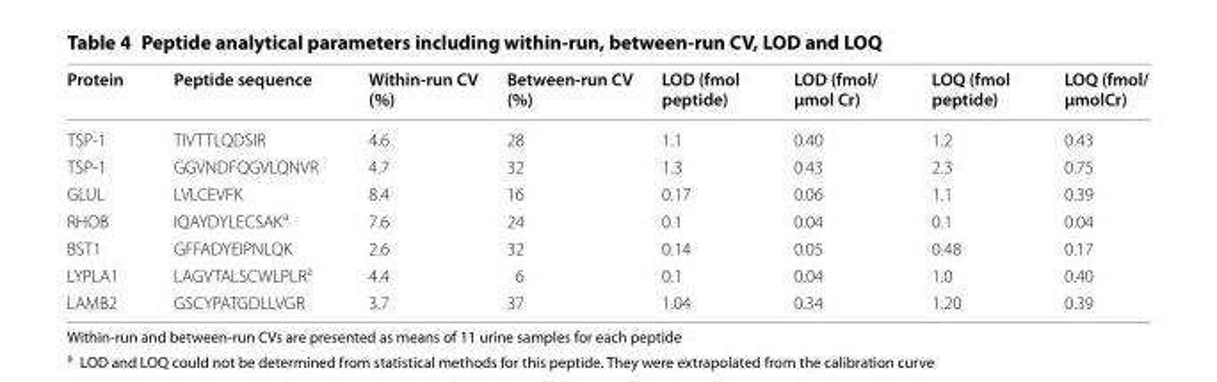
<table><thead><tr><td>Protein</td><td>Peptide sequence</td><td>Within‑run CV (%)</td><td>Between‑run CV (%)</td><td>LOD (fmol peptide)</td><td>LOD (fmol/ µmol Cr)</td><td>LOQ (fmol peptide)</td><td>LOQ (fmol/ µmolCr)</td></tr></thead><tbody><tr><td>TSP-1</td><td>TIVTTLQDSIR</td><td>4.6</td><td>28</td><td>1.1</td><td>0.40</td><td>1.2</td><td>0.43</td></tr><tr><td>TSP-1</td><td>GGVNDFQGVLQNVR</td><td>4.7</td><td>32</td><td>1.3</td><td>0.43</td><td>2.3</td><td>0.75</td></tr><tr><td>GLUL</td><td>LVLCEVFK</td><td>8.4</td><td>16</td><td>0.17</td><td>0.06</td><td>1.1</td><td>0.39</td></tr><tr><td>RHOB</td><td>IQAYDYLECSAK<sup>a</sup></td><td>7.6</td><td>24</td><td>0.1</td><td>0.04</td><td>0.1</td><td>0.04</td></tr><tr><td>BST1</td><td>GFFADYEIPNLQK</td><td>2.6</td><td>32</td><td>0.14</td><td>0.05</td><td>0.48</td><td>0.17</td></tr><tr><td>LYPLA1</td><td>LAGVTALSCWLPLR<sup>a</sup></td><td>4.4</td><td>6</td><td>0.1</td><td>0.04</td><td>1.0</td><td>0.40</td></tr><tr><td>LAMB2</td><td>GSCYPATGDLLVGR</td><td>3.7</td><td>37</td><td>1.04</td><td>0.34</td><td>1.20</td><td>0.39</td></tr></tbody></table>